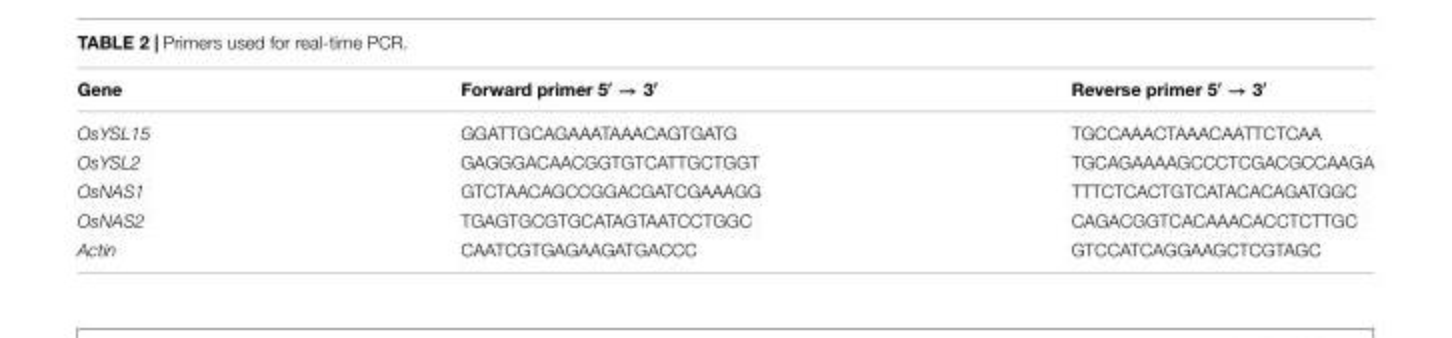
<table><thead><tr><td>Gene</td><td>Forward primer 5′ → 3′</td><td>Reverse primer 5′ → 3′</td></tr></thead><tbody><tr><td>OsYSL15</td><td>GGATTGCAGAAATAAACAGTGATG</td><td>TGCCAAACTAAACAATTCTCAA</td></tr><tr><td>OsYSL2</td><td>GAGGGACAACGGTGTCATTGCTGGT</td><td>TGCAGAAAAGCCCTCGACGCCAAGA</td></tr><tr><td>OsNAS1</td><td>GTCTAACAGCCGGACGATCGAAAGG</td><td>TTTCTCACTGTCATACACAGATGGC</td></tr><tr><td>OsNAS2</td><td>TGAGTGCGTGCATAGTAATCCTGGC</td><td>CAGACGGTCACAAACACCTCTTGC</td></tr><tr><td>Actin</td><td>CAATCGTGAGAAGATGACCC</td><td>GTCCATCAGGAAGCTCGTAGC</td></tr></tbody></table>